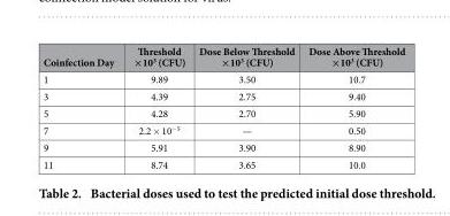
<table><thead><tr><td>Coinfection Day</td><td>Threshold ×10<sup>3</sup> (CFU)</td><td>Dose Below Threshold ×10<sup>3</sup> (CFU)</td><td>Dose Above Threshold ×10<sup>3</sup> (CFU)</td></tr></thead><tbody><tr><td>1</td><td>9.89</td><td>3.50</td><td>10.7</td></tr><tr><td>3</td><td>4.39</td><td>2.75</td><td>9.40</td></tr><tr><td>5</td><td>4.28</td><td>2.70</td><td>5.90</td></tr><tr><td>7</td><td>2.2 × 10<sup>−5</sup></td><td>—</td><td>0.50</td></tr><tr><td>9</td><td>5.91</td><td>3.90</td><td>8.90</td></tr><tr><td>11</td><td>8.74</td><td>3.65</td><td>10.0</td></tr></tbody></table>